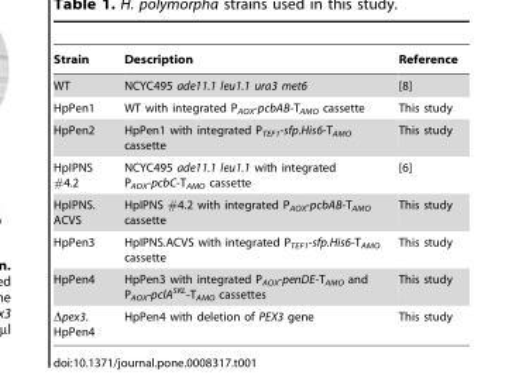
<table><thead><tr><td>Strain</td><td>Description</td><td>Reference</td></tr></thead><tbody><tr><td>WT</td><td>NCYC495 ade11.1 leu1.1 ura3 met6</td><td>[8]</td></tr><tr><td>HpPen1</td><td>WT with integrated P<sub>AOX</sub>-pcbAB-T<sub>AMO</sub> cassette</td><td>This study</td></tr><tr><td>HpPen2</td><td>HpPen1 with integrated P<sub>TEF1</sub>-sfp.His6-T<sub>AMO</sub> cassette</td><td>This study</td></tr><tr><td>HpIPNS #4.2</td><td>NCYC495 ade11.1 leu1.1 with integrated P<sub>AOX</sub>-pcbC-T<sub>AMO</sub> cassette</td><td>[6]</td></tr><tr><td>HpIPNS. ACVS</td><td>HpIPNS #4.2 with integrated P<sub>AOX</sub>-pcbAB-T<sub>AMO</sub> cassette</td><td>This study</td></tr><tr><td>HpPen3</td><td>HpIPNS.ACVS with integrated P<sub>TEF1</sub>-sfp.His6-T<sub>AMO</sub> cassette</td><td>This study</td></tr><tr><td>HpPen4</td><td>HpPen3 with integrated P<sub>AOX</sub>-penDE-T<sub>AMO</sub> and P<sub>AOX</sub>-pclA<sup>SKL</sup>-T<sub>AMO</sub> cassettes</td><td>This study</td></tr><tr><td>Δpex3. HpPen4</td><td>HpPen4 with deletion of PEX3 gene</td><td>This study</td></tr></tbody></table>